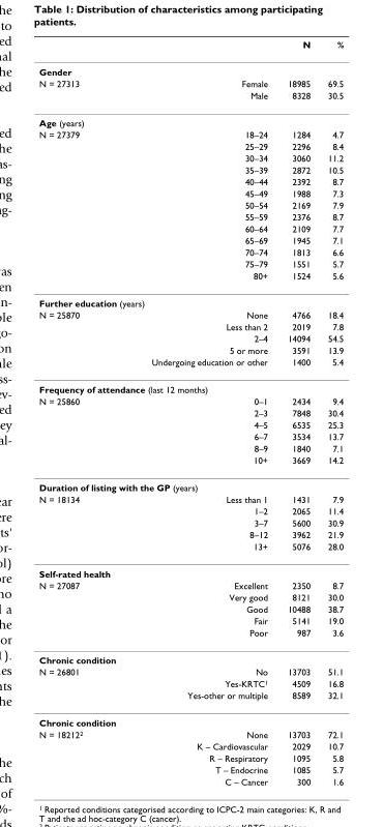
<table><thead><tr><td></td><td></td><td>N</td><td>%</td></tr></thead><tbody><tr><td colspan="4">Gender</td></tr><tr><td rowspan="2">N = 27313</td><td>Female</td><td>18985</td><td>69.5</td></tr><tr><td>Male</td><td>8328</td><td>30.5</td></tr><tr><td colspan="4">Age (years)</td></tr><tr><td rowspan="13">N = 27379</td><td>18–24</td><td>1284</td><td>4.7</td></tr><tr><td>25–29</td><td>2296</td><td>8.4</td></tr><tr><td>30–34</td><td>3060</td><td>11.2</td></tr><tr><td>35–39</td><td>2872</td><td>10.5</td></tr><tr><td>40–44</td><td>2392</td><td>8.7</td></tr><tr><td>45–49</td><td>1988</td><td>7.3</td></tr><tr><td>50–54</td><td>2169</td><td>7.9</td></tr><tr><td>55–59</td><td>2376</td><td>8.7</td></tr><tr><td>60–64</td><td>2109</td><td>7.7</td></tr><tr><td>65–69</td><td>1945</td><td>7.1</td></tr><tr><td>70–74</td><td>1813</td><td>6.6</td></tr><tr><td>75–79</td><td>1551</td><td>5.7</td></tr><tr><td>80+</td><td>1524</td><td>5.6</td></tr><tr><td colspan="4">Further education (years)</td></tr><tr><td rowspan="5">N = 25870</td><td>None</td><td>4766</td><td>18.4</td></tr><tr><td>Less than 2</td><td>2019</td><td>7.8</td></tr><tr><td>2–4</td><td>14094</td><td>54.5</td></tr><tr><td>5 or more</td><td>3591</td><td>13.9</td></tr><tr><td>Undergoing education or other</td><td>1400</td><td>5.4</td></tr><tr><td colspan="4">Frequency of attendance (last 12 months)</td></tr><tr><td rowspan="6">N = 25860</td><td>0–1</td><td>2434</td><td>9.4</td></tr><tr><td>2–3</td><td>7848</td><td>30.4</td></tr><tr><td>4–5</td><td>6535</td><td>25.3</td></tr><tr><td>6–7</td><td>3534</td><td>13.7</td></tr><tr><td>8–9</td><td>1840</td><td>7.1</td></tr><tr><td>10+</td><td>3669</td><td>14.2</td></tr><tr><td colspan="4">Duration of listing with the GP (years)</td></tr><tr><td rowspan="5">N = 18134</td><td>Less than 1</td><td>1431</td><td>7.9</td></tr><tr><td>1–2</td><td>2065</td><td>11.4</td></tr><tr><td>3–7</td><td>5600</td><td>30.9</td></tr><tr><td>8–12</td><td>3962</td><td>21.9</td></tr><tr><td>13+</td><td>5076</td><td>28.0</td></tr><tr><td colspan="4">Self-rated health</td></tr><tr><td rowspan="5">N = 27087</td><td>Excellent</td><td>2350</td><td>8.7</td></tr><tr><td>Very good</td><td>8121</td><td>30.0</td></tr><tr><td>Good</td><td>10488</td><td>38.7</td></tr><tr><td>Fair</td><td>5141</td><td>19.0</td></tr><tr><td>Poor</td><td>987</td><td>3.6</td></tr><tr><td colspan="4">Chronic condition</td></tr><tr><td rowspan="3">N = 26801</td><td>No</td><td>13703</td><td>51.1</td></tr><tr><td>Yes-KRTC<sup>1</sup></td><td>4509</td><td>16.8</td></tr><tr><td>Yes-other or multiple</td><td>8589</td><td>32.1</td></tr><tr><td colspan="4">Chronic condition</td></tr><tr><td rowspan="5">N = 18212<sup>2</sup></td><td>None</td><td>13703</td><td>72.1</td></tr><tr><td>K – Cardiovascular</td><td>2029</td><td>10.7</td></tr><tr><td>R – Respiratory</td><td>1095</td><td>5.8</td></tr><tr><td>T – Endocrine</td><td>1085</td><td>5.7</td></tr><tr><td>C – Cancer</td><td>300</td><td>1.6</td></tr></tbody></table>